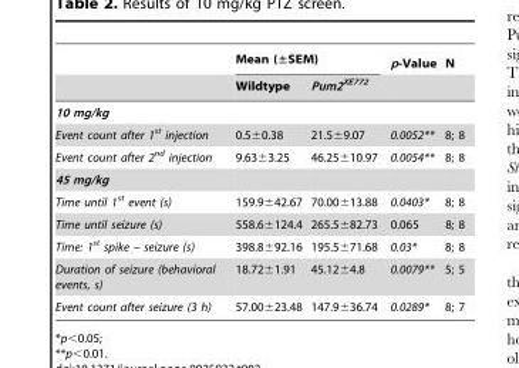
<table><thead><tr><td rowspan="2"></td><td colspan="2">Mean (±SEM)</td><td rowspan="2">p-Value</td><td rowspan="2">N</td></tr><tr><td>Wildtype</td><td>Pum2<sup>XE772</sup></td></tr></thead><tbody><tr><td colspan="5">10 mg/kg</td></tr><tr><td>Event count after 1<sup>st</sup> injection</td><td>0.5±0.38</td><td>21.5±9.07</td><td>0.0052**</td><td>8; 8</td></tr><tr><td>Event count after 2<sup>nd</sup> injection</td><td>9.63±3.25</td><td>46.25±10.97</td><td>0.0054**</td><td>8; 8</td></tr><tr><td colspan="5">45 mg/kg</td></tr><tr><td>Time until 1<sup>st</sup> event (s)</td><td>159.9±42.67</td><td>70.00±13.88</td><td>0.0403*</td><td>8; 8</td></tr><tr><td>Time until seizure (s)</td><td>558.6±124.4</td><td>265.5±82.73</td><td>0.065</td><td>8; 8</td></tr><tr><td>Time: 1<sup>st</sup> spike – seizure (s)</td><td>398.8±92.16</td><td>195.5±71.68</td><td>0.03*</td><td>8; 8</td></tr><tr><td>Duration of seizure (behavioral events, s)</td><td>18.72±1.91</td><td>45.12±4.8</td><td>0.0079**</td><td>5; 5</td></tr><tr><td>Event count after seizure (3 h)</td><td>57.00±23.48</td><td>147.9±36.74</td><td>0.0289*</td><td>8; 7</td></tr></tbody></table>